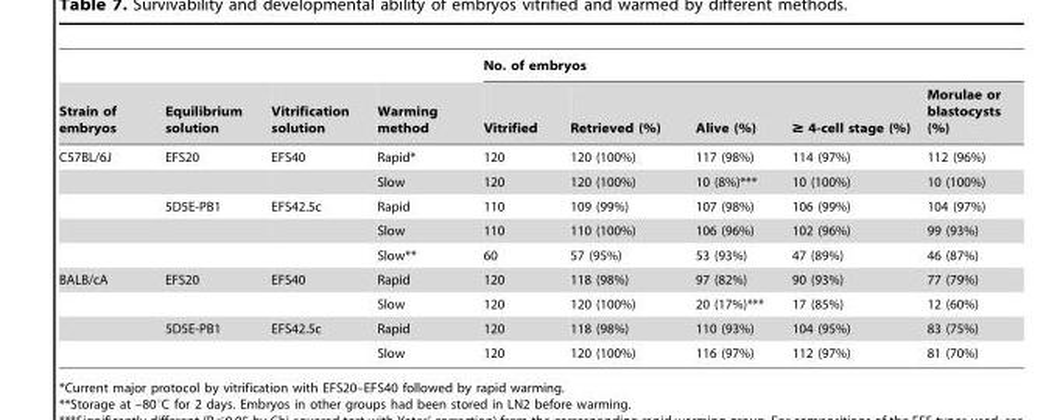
<table><thead><tr><td rowspan="2">Strain of embryos</td><td rowspan="2">Equilibrium solution</td><td rowspan="2">Vitrification solution</td><td rowspan="2">Warming method</td><td colspan="5">No. of embryos</td></tr><tr><td>Vitrified</td><td>Retrieved (%)</td><td>Alive (%)</td><td>≥ 4-cell stage (%)</td><td>Morulae or blastocysts (%)</td></tr></thead><tbody><tr><td rowspan="5">C57BL/6J</td><td>EFS20</td><td>EFS40</td><td>Rapid*</td><td>120</td><td>120 (100%)</td><td>117 (98%)</td><td>114 (97%)</td><td>112 (96%)</td></tr><tr><td></td><td></td><td>Slow</td><td>120</td><td>120 (100%)</td><td>10 (8%)***</td><td>10 (100%)</td><td>10 (100%)</td></tr><tr><td>5D5E-PB1</td><td>EFS42.5c</td><td>Rapid</td><td>110</td><td>109 (99%)</td><td>107 (98%)</td><td>106 (99%)</td><td>104 (97%)</td></tr><tr><td></td><td></td><td>Slow</td><td>110</td><td>110 (100%)</td><td>106 (96%)</td><td>102 (96%)</td><td>99 (93%)</td></tr><tr><td></td><td></td><td>Slow**</td><td>60</td><td>57 (95%)</td><td>53 (93%)</td><td>47 (89%)</td><td>46 (87%)</td></tr><tr><td rowspan="4">BALB/cA</td><td>EFS20</td><td>EFS40</td><td>Rapid</td><td>120</td><td>118 (98%)</td><td>97 (82%)</td><td>90 (93%)</td><td>77 (79%)</td></tr><tr><td></td><td></td><td>Slow</td><td>120</td><td>120 (100%)</td><td>20 (17%)***</td><td>17 (85%)</td><td>12 (60%)</td></tr><tr><td>5D5E-PB1</td><td>EFS42.5c</td><td>Rapid</td><td>120</td><td>118 (98%)</td><td>110 (93%)</td><td>104 (95%)</td><td>83 (75%)</td></tr><tr><td></td><td></td><td>Slow</td><td>120</td><td>120 (100%)</td><td>116 (97%)</td><td>112 (97%)</td><td>81 (70%)</td></tr></tbody></table>